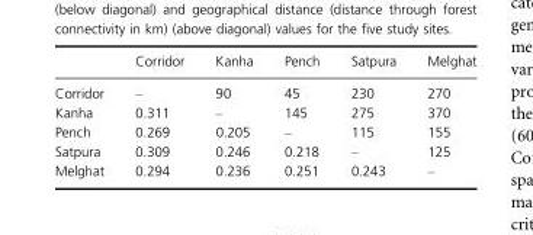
<table><thead><tr><td></td><td>Corridor</td><td>Kanha</td><td>Pench</td><td>Satpura</td><td>Melghat</td></tr></thead><tbody><tr><td>Corridor</td><td>–</td><td>90</td><td>45</td><td>230</td><td>270</td></tr><tr><td>Kanha</td><td>0.311</td><td>–</td><td>145</td><td>275</td><td>370</td></tr><tr><td>Pench</td><td>0.269</td><td>0.205</td><td>–</td><td>115</td><td>155</td></tr><tr><td>Satpura</td><td>0.309</td><td>0.246</td><td>0.218</td><td>–</td><td>125</td></tr><tr><td>Melghat</td><td>0.294</td><td>0.236</td><td>0.251</td><td>0.243</td><td>–</td></tr></tbody></table>